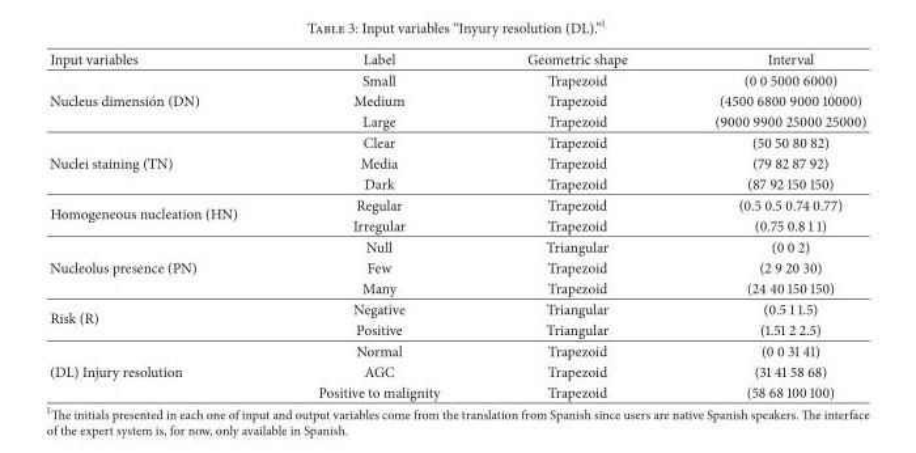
<table><thead><tr><td>Input variables</td><td>Label</td><td>Geometric shape</td><td>Interval</td></tr></thead><tbody><tr><td></td><td>Small</td><td>Trapezoid</td><td>(0 0 5000 6000)</td></tr><tr><td rowspan="3">Nucleus dimensi´on (DN)</td><td>Medium</td><td>Trapezoid</td><td>(4500 6800 9000 10000)</td></tr><tr><td>Large</td><td>Trapezoid</td><td>(9000 9900 25000 25000)</td></tr><tr><td>Clear</td><td>Trapezoid</td><td>(50 50 80 82)</td></tr><tr><td rowspan="2">Nuclei staining (TN)</td><td>Media</td><td>Trapezoid</td><td>(79 82 87 92)</td></tr><tr><td>Dark</td><td>Trapezoid</td><td>(87 92 150 150)</td></tr><tr><td rowspan="3">Homogeneous nucleation (HN)</td><td>Regular</td><td>Trapezoid</td><td>(0.5 0.5 0.74 0.77)</td></tr><tr><td>Irregular</td><td>Trapezoid</td><td>(0.75 0.8 1 1)</td></tr><tr><td>Null</td><td>Triangular</td><td>(0 0 2)</td></tr><tr><td rowspan="2">Nucleolus presence (PN)</td><td>Few</td><td>Trapezoid</td><td>(2 9 20 30)</td></tr><tr><td>Many</td><td>Trapezoid</td><td>(24 40 150 150)</td></tr><tr><td rowspan="3">Risk (R)</td><td>Negative</td><td>Triangular</td><td>(0.5 1 1.5)</td></tr><tr><td>Positive</td><td>Triangular</td><td>(1.51 2 2.5)</td></tr><tr><td>Normal</td><td>Trapezoid</td><td>(0 0 31 41)</td></tr><tr><td rowspan="2">(DL) Injury resolution</td><td>AGC</td><td>Trapezoid</td><td>(31 41 58 68)</td></tr><tr><td>Positive to malignity</td><td>Trapezoid</td><td>(58 68 100 100)</td></tr></tbody></table>